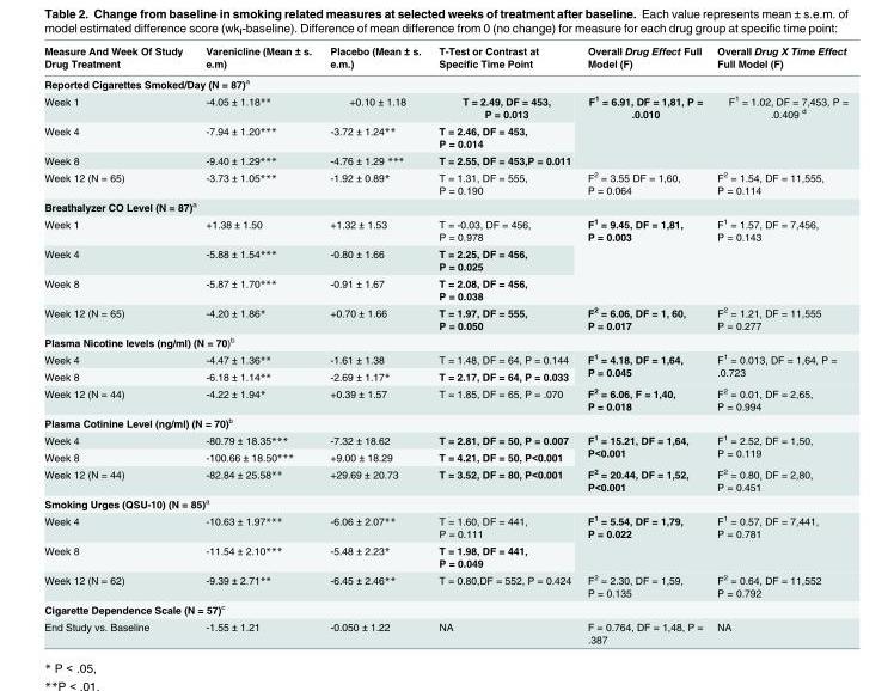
<table><thead><tr><td>Measure And Week Of Study Drug Treatment</td><td>Varenicline (Mean ± s. e.m)</td><td>Placebo (Mean ± s. e.m.)</td><td>T-Test or Contrast at Specific Time Point</td><td>Overall Drug Effect Full Model (F)</td><td>Overall Drug X Time Effect Full Model (F)</td></tr></thead><tbody><tr><td colspan="6">Reported Cigarettes Smoked/Day (N = 87)<sup>a</sup></td></tr><tr><td>Week 1</td><td>-4.05 ± 1.18**</td><td>+0.10 ± 1.18</td><td>T = 2.49, DF = 453, P = 0.013</td><td rowspan="3">F<sup>1</sup> = 6.91, DF = 1,81, P = .0.010</td><td rowspan="3">F<sup>1</sup> = 1.02, DF = 7,453, P = .0.409 <sup>d</sup></td></tr><tr><td>Week 4</td><td>-7.94 ± 1.20***</td><td>-3.72 ± 1.24**</td><td>T = 2.46, DF = 453, P = 0.014</td></tr><tr><td>Week 8</td><td>-9.40 ± 1.29***</td><td>-4.76 ± 1.29 ***</td><td>T = 2.55, DF = 453,P = 0.011</td></tr><tr><td>Week 12 (N = 65)</td><td>-3.73 ± 1.05***</td><td>-1.92 ± 0.89*</td><td>T = 1.31, DF = 555, P = 0.190</td><td>F<sup>2</sup> = 3.55 DF = 1,60, P = 0.064</td><td>F<sup>2</sup> = 1.54, DF = 11,555, P = 0.114</td></tr><tr><td colspan="6">Breathalyzer CO Level (N = 87)<sup>a</sup></td></tr><tr><td>Week 1</td><td>+1.38 ± 1.50</td><td>+1.32 ± 1.53</td><td>T = -0.03, DF = 456, P = 0.978</td><td rowspan="3">F<sup>1</sup> = 9.45, DF = 1,81, P = 0.003</td><td rowspan="3">F<sup>1</sup> = 1.57, DF = 7,456, P = 0.143</td></tr><tr><td>Week 4</td><td>-5.88 ± 1.54***</td><td>-0.80 ± 1.66</td><td>T = 2.25, DF = 456, P = 0.025</td></tr><tr><td>Week 8</td><td>-5.87 ± 1.70***</td><td>-0.91 ± 1.67</td><td>T = 2.08, DF = 456, P = 0.038</td></tr><tr><td>Week 12 (N = 65)</td><td>-4.20 ± 1.86*</td><td>+0.70 ± 1.66</td><td>T = 1.97, DF = 555, P = 0.050</td><td>F<sup>2</sup> = 6.06, DF = 1, 60, P = 0.017</td><td>F<sup>2</sup> = 1.21, DF = 11,555 P = 0.277</td></tr><tr><td colspan="6">Plasma Nicotine levels (ng/ml) (N = 70)<sup>b</sup></td></tr><tr><td>Week 4</td><td>-4.47 ± 1.36**</td><td>-1.61 ± 1.38</td><td>T = 1.48, DF = 64, P = 0.144</td><td rowspan="2">F<sup>1</sup> = 4.18, DF = 1,64, P = 0.045</td><td rowspan="2">F<sup>1</sup> = 0.013, DF = 1,64, P = .0.723</td></tr><tr><td>Week 8</td><td>-6.18 ± 1.14**</td><td>-2.69 ± 1.17*</td><td>T = 2.17, DF = 64, P = 0.033</td></tr><tr><td>Week 12 (N = 44)</td><td>-4.22 ± 1.94*</td><td>+0.39 ± 1.57</td><td>T = 1.85, DF = 65, P = .070</td><td>F<sup>2</sup> = 6.06, F = 1,40, P = 0.018</td><td>F<sup>2</sup> = 0.01, DF = 2,65, P = 0.994</td></tr><tr><td colspan="6">Plasma Cotinine Level (ng/ml) (N = 70)<sup>b</sup></td></tr><tr><td>Week 4</td><td>-80.79 ± 18.35***</td><td>-7.32 ± 18.62</td><td>T = 2.81, DF = 50, P = 0.007</td><td rowspan="2">F<sup>1</sup> = 15.21, DF = 1,64, P&lt;0.001</td><td rowspan="2">F<sup>1</sup> = 2.52, DF = 1,50, P = 0.119</td></tr><tr><td>Week 8</td><td>-100.66 ± 18.50***</td><td>+9.00 ± 18.29</td><td>T = 4.21, DF = 50, P&lt;0.001</td></tr><tr><td>Week 12 (N = 44)</td><td>-82.84 ± 25.58**</td><td>+29.69 ± 20.73</td><td>T = 3.52, DF = 80, P&lt;0.001</td><td>F<sup>2</sup> = 20.44, DF = 1,52, P&lt;0.001</td><td>F<sup>2</sup> = 0.80, DF = 2,80, P = 0.451</td></tr><tr><td colspan="6">Smoking Urges (QSU-10) (N = 85)<sup>a</sup></td></tr><tr><td>Week 4</td><td>-10.63 ± 1.97***</td><td>-6.06 ± 2.07**</td><td>T = 1.60, DF = 441, P = 0.111</td><td rowspan="2">F<sup>1</sup> = 5.54, DF = 1,79, P = 0.022</td><td rowspan="2">F<sup>1</sup> = 0.57, DF = 7,441, P = 0.781</td></tr><tr><td>Week 8</td><td>-11.54 ± 2.10***</td><td>-5.48 ± 2.23*</td><td>T = 1.98, DF = 441, P = 0.049</td></tr><tr><td>Week 12 (N = 62)</td><td>-9.39 ± 2.71**</td><td>-6.45 ± 2.46**</td><td>T = 0.80,DF = 552, P = 0.424</td><td>F<sup>2</sup> = 2.30, DF = 1,59, P = 0.135</td><td>F<sup>2</sup> = 0.64, DF = 11,552 P = 0.792</td></tr><tr><td colspan="6">Cigarette Dependence Scale (N = 57)<sup>c</sup></td></tr><tr><td>End Study vs. Baseline</td><td>-1.55 ± 1.21</td><td>-0.050 ± 1.22</td><td>NA</td><td>F = 0.764, DF = 1,48, P = .387</td><td>NA</td></tr></tbody></table>